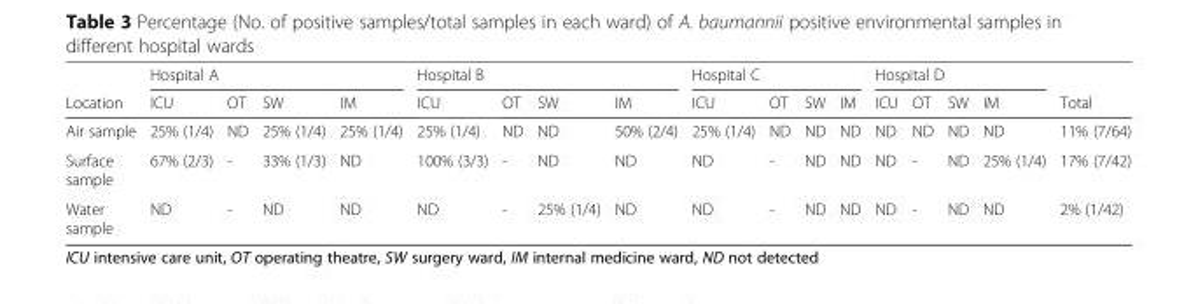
<table><thead><tr><td rowspan="2">Location</td><td colspan="4">Hospital A</td><td colspan="4">Hospital B</td><td colspan="4">Hospital C</td><td colspan="4">Hospital D</td><td rowspan="2">Total</td></tr><tr><td>ICU</td><td>OT</td><td>SW</td><td>IM</td><td>ICU</td><td>OT</td><td>SW</td><td>IM</td><td>ICU</td><td>OT</td><td>SW</td><td>IM</td><td>ICU</td><td>OT</td><td>SW</td><td>IM</td></tr></thead><tbody><tr><td>Air sample</td><td>25% (1/4)</td><td>ND</td><td>25% (1/4)</td><td>25% (1/4)</td><td>25% (1/4)</td><td>ND</td><td>ND</td><td>50% (2/4)</td><td>25% (1/4)</td><td>ND</td><td>ND</td><td>ND</td><td>ND</td><td>ND</td><td>ND</td><td>ND</td><td>11% (7/64)</td></tr><tr><td>Surface sample</td><td>67% (2/3)</td><td>-</td><td>33% (1/3)</td><td>ND</td><td>100% (3/3)</td><td>-</td><td>ND</td><td>ND</td><td>ND</td><td>-</td><td>ND</td><td>ND</td><td>ND</td><td>-</td><td>ND</td><td>25% (1/4)</td><td>17% (7/42)</td></tr><tr><td>Water sample</td><td>ND</td><td>-</td><td>ND</td><td>ND</td><td>ND</td><td>-</td><td>25% (1/4)</td><td>ND</td><td>ND</td><td>-</td><td>ND</td><td>ND</td><td>ND</td><td>-</td><td>ND</td><td>ND</td><td>2% (1/42)</td></tr></tbody></table>